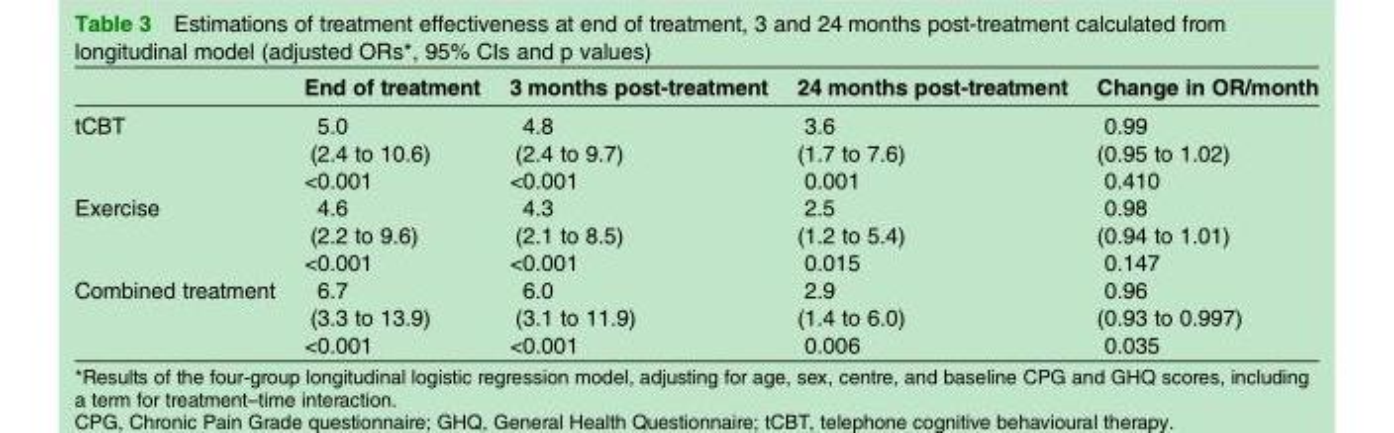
<table><thead><tr><td></td><td>End of treatment</td><td>3 months post-treatment</td><td>24 months post-treatment</td><td>Change in OR/month</td></tr></thead><tbody><tr><td rowspan="3">tCBT</td><td>5.0</td><td>4.8</td><td>3.6</td><td>0.99</td></tr><tr><td>(2.4 to 10.6)</td><td>(2.4 to 9.7)</td><td>(1.7 to 7.6)</td><td>(0.95 to 1.02)</td></tr><tr><td>&lt;0.001</td><td>&lt;0.001</td><td>0.001</td><td>0.410</td></tr><tr><td rowspan="3">Exercise</td><td>4.6</td><td>4.3</td><td>2.5</td><td>0.98</td></tr><tr><td>(2.2 to 9.6)</td><td>(2.1 to 8.5)</td><td>(1.2 to 5.4)</td><td>(0.94 to 1.01)</td></tr><tr><td>&lt;0.001</td><td>&lt;0.001</td><td>0.015</td><td>0.147</td></tr><tr><td rowspan="3">Combined treatment</td><td>6.7</td><td>6.0</td><td>2.9</td><td>0.96</td></tr><tr><td>(3.3 to 13.9)</td><td>(3.1 to 11.9)</td><td>(1.4 to 6.0)</td><td>(0.93 to 0.997)</td></tr><tr><td>&lt;0.001</td><td>&lt;0.001</td><td>0.006</td><td>0.035</td></tr></tbody></table>